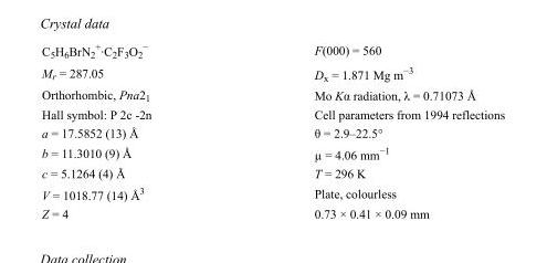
<table><tbody><tr><td>C<sub>5</sub>H<sub>6</sub>BrN<sub>2</sub> <sup>+</sup>·C<sub>2</sub>F<sub>3</sub>O<sub>2</sub> <sup>−</sup></td><td>F(000) = 560</td></tr><tr><td>M<sub>r</sub> = 287.05</td><td>D<sub>x</sub> = 1.871 Mg m<sup>−3</sup></td></tr><tr><td>Orthorhombic, Pna2<sub>1</sub></td><td>Mo Kα radiation, λ = 0.71073 Å</td></tr><tr><td>Hall symbol: P 2c -2n</td><td>Cell parameters from 1994 reflections</td></tr><tr><td>a = 17.5852 (13) Å</td><td>θ = 2.9–22.5°</td></tr><tr><td>b = 11.3010 (9) Å</td><td>µ = 4.06 mm<sup>−1</sup></td></tr><tr><td>c = 5.1264 (4) Å</td><td>T = 296 K</td></tr><tr><td>V = 1018.77 (14) Å<sup>3</sup></td><td>Plate, colourless</td></tr><tr><td>Z = 4</td><td>0.73 × 0.41 × 0.09 mm</td></tr></tbody></table>